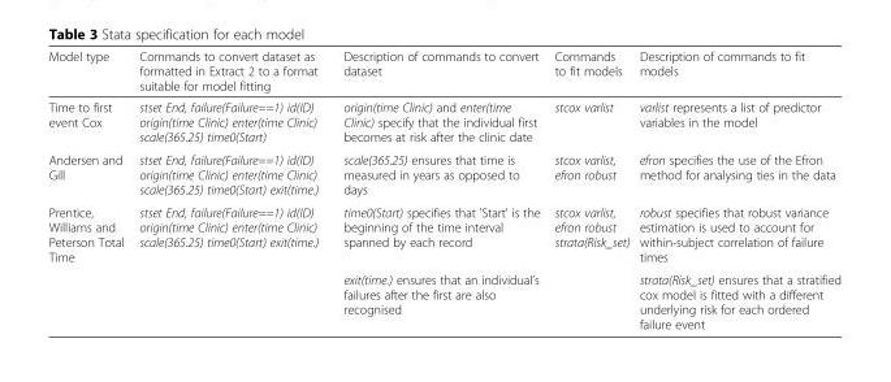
<table><thead><tr><td>Model type</td><td>Commands to convert dataset as formatted in Extract 2 to a format suitable for model fitting</td><td>Description of commands to convert dataset</td><td>Commands to fit models</td><td>Description of commands to fit models</td></tr></thead><tbody><tr><td>Time to first event Cox</td><td>stset End, failure(Failure==1) id(ID) origin(time Clinic) enter(time Clinic) scale(365.25) time0(Start)</td><td>origin(time Clinic) and enter(time Clinic) specify that the individual first becomes at risk after the clinic date</td><td>stcox varlist</td><td>varlist represents a list of predictor variables in the model</td></tr><tr><td>Andersen and Gill</td><td>stset End, failure(Failure==1) id(ID) origin(time Clinic) enter(time Clinic) scale(365.25) time0(Start) exit(time.)</td><td>scale(365.25) ensures that time is measured in years as opposed to days</td><td>stcox varlist, efron robust</td><td>efron specifies the use of the Efron method for analysing ties in the data</td></tr><tr><td rowspan="2">Prentice, Williams and Peterson Total Time</td><td rowspan="2">stset End, failure(Failure==1) id(ID) origin(time Clinic) enter(time Clinic) scale(365.25) time0(Start) exit(time.)</td><td>time0(Start) specifies that &#x27;Start&#x27; is the beginning of the time interval spanned by each record</td><td>stcox varlist, efron robust strata(Risk_set)</td><td>robust specifies that robust variance estimation is used to account for within-subject correlation of failure times</td></tr><tr><td>exit(time.) ensures that an individual’s failures after the first are also recognised</td><td></td><td>strata(Risk_set) ensures that a stratified cox model is fitted with a different underlying risk for each ordered failure event</td></tr></tbody></table>